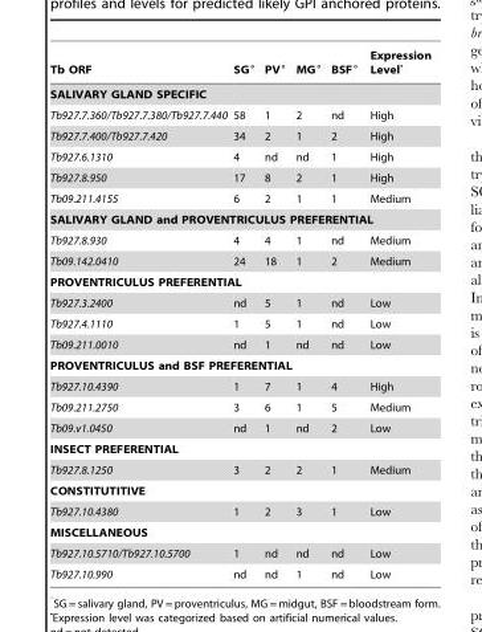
<table><thead><tr><td>Tb ORF</td><td>SG°</td><td>PV°</td><td>MG°</td><td>BSF°</td><td>Expression Level•</td></tr></thead><tbody><tr><td colspan="6">SALIVARY GLAND SPECIFIC</td></tr><tr><td>Tb927.7.360/Tb927.7.380/Tb927.7.440</td><td>58</td><td>1</td><td>2</td><td>nd</td><td>High</td></tr><tr><td>Tb927.7.400/Tb927.7.420</td><td>34</td><td>2</td><td>1</td><td>2</td><td>High</td></tr><tr><td>Tb927.6.1310</td><td>4</td><td>nd</td><td>nd</td><td>1</td><td>High</td></tr><tr><td>Tb927.8.950</td><td>17</td><td>8</td><td>2</td><td>1</td><td>High</td></tr><tr><td>Tb09.211.4155</td><td>6</td><td>2</td><td>1</td><td>1</td><td>Medium</td></tr><tr><td colspan="6">SALIVARY GLAND and PROVENTRICULUS PREFERENTIAL</td></tr><tr><td>Tb927.8.930</td><td>4</td><td>4</td><td>1</td><td>nd</td><td>Medium</td></tr><tr><td>Tb09.142.0410</td><td>24</td><td>18</td><td>1</td><td>2</td><td>Medium</td></tr><tr><td colspan="6">PROVENTRICULUS PREFERENTIAL</td></tr><tr><td>Tb927.3.2400</td><td>nd</td><td>5</td><td>1</td><td>nd</td><td>Low</td></tr><tr><td>Tb927.4.1110</td><td>1</td><td>5</td><td>1</td><td>nd</td><td>Low</td></tr><tr><td>Tb09.211.0010</td><td>nd</td><td>1</td><td>nd</td><td>nd</td><td>Low</td></tr><tr><td colspan="6">PROVENTRICULUS and BSF PREFERENTIAL</td></tr><tr><td>Tb927.10.4390</td><td>1</td><td>7</td><td>1</td><td>4</td><td>High</td></tr><tr><td>Tb09.211.2750</td><td>3</td><td>6</td><td>1</td><td>5</td><td>Medium</td></tr><tr><td>Tb09.v1.0450</td><td>nd</td><td>1</td><td>nd</td><td>2</td><td>Low</td></tr><tr><td colspan="6">INSECT PREFERENTIAL</td></tr><tr><td>Tb927.8.1250</td><td>3</td><td>2</td><td>2</td><td>1</td><td>Medium</td></tr><tr><td colspan="6">CONSTITUTITIVE</td></tr><tr><td>Tb927.10.4380</td><td>1</td><td>2</td><td>3</td><td>1</td><td>Low</td></tr><tr><td colspan="6">MISCELLANEOUS</td></tr><tr><td>Tb927.10.5710/Tb927.10.5700</td><td>1</td><td>nd</td><td>nd</td><td>nd</td><td>Low</td></tr><tr><td>Tb927.10.990</td><td>nd</td><td>nd</td><td>1</td><td>nd</td><td>Low</td></tr></tbody></table>